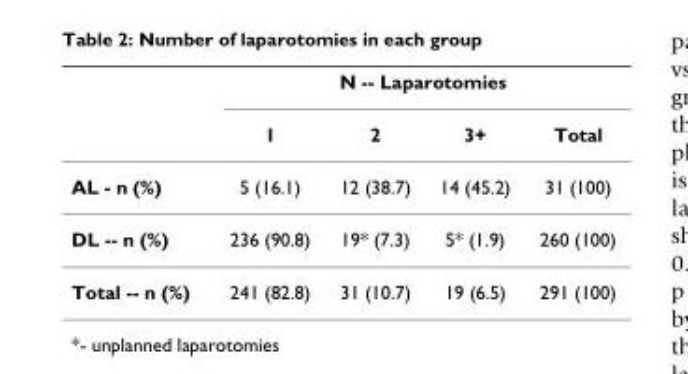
<table><thead><tr><td rowspan="2"></td><td colspan="4">N -- Laparotomies</td></tr><tr><td>1</td><td>2</td><td>3+</td><td>Total</td></tr></thead><tbody><tr><td>AL - n (%)</td><td>5 (16.1)</td><td>12 (38.7)</td><td>14 (45.2)</td><td>31 (100)</td></tr><tr><td>DL -- n (%)</td><td>236 (90.8)</td><td>19* (7.3)</td><td>5* (1.9)</td><td>260 (100)</td></tr><tr><td>Total -- n (%)</td><td>241 (82.8)</td><td>31 (10.7)</td><td>19 (6.5)</td><td>291 (100)</td></tr></tbody></table>